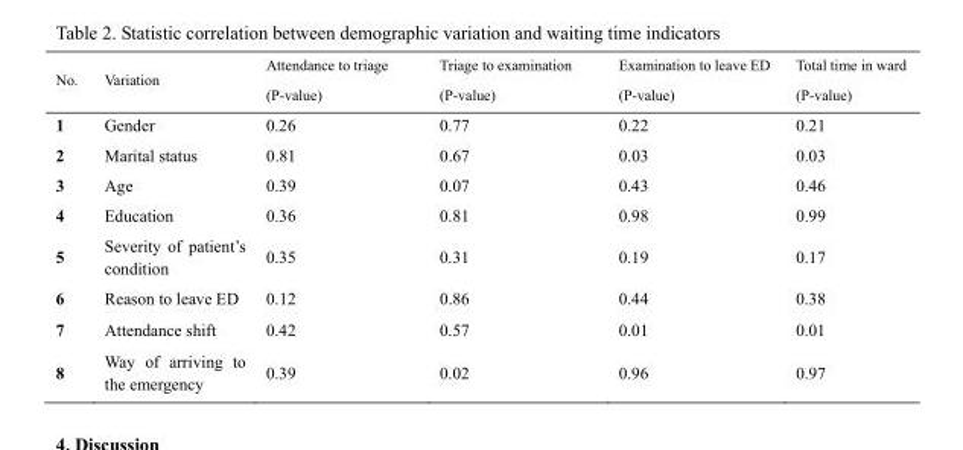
<table><thead><tr><td>No.</td><td>Variation</td><td>Attendance to triage (P-value)</td><td>Triage to examination (P-value)</td><td>Examination to leave ED (P-value)</td><td>Total time in ward (P-value)</td></tr></thead><tbody><tr><td>1</td><td>Gender</td><td>0.26</td><td>0.77</td><td>0.22</td><td>0.21</td></tr><tr><td>2</td><td>Marital status</td><td>0.81</td><td>0.67</td><td>0.03</td><td>0.03</td></tr><tr><td>3</td><td>Age</td><td>0.39</td><td>0.07</td><td>0.43</td><td>0.46</td></tr><tr><td>4</td><td>Education</td><td>0.36</td><td>0.81</td><td>0.98</td><td>0.99</td></tr><tr><td>5</td><td>Severity of patient’s condition</td><td>0.35</td><td>0.31</td><td>0.19</td><td>0.17</td></tr><tr><td>6</td><td>Reason to leave ED</td><td>0.12</td><td>0.86</td><td>0.44</td><td>0.38</td></tr><tr><td>7</td><td>Attendance shift</td><td>0.42</td><td>0.57</td><td>0.01</td><td>0.01</td></tr><tr><td>8</td><td>Way of arriving to the emergency</td><td>0.39</td><td>0.02</td><td>0.96</td><td>0.97</td></tr></tbody></table>